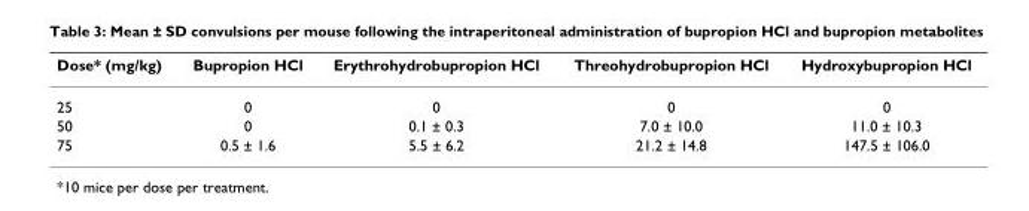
<table><thead><tr><td>Dose* (mg/kg)</td><td>Bupropion HCl</td><td>Erythrohydrobupropion HCl</td><td>Threohydrobupropion HCl</td><td>Hydroxybupropion HCl</td></tr></thead><tbody><tr><td>25</td><td>0</td><td>0</td><td>0</td><td>0</td></tr><tr><td>50</td><td>0</td><td>0.1 ± 0.3</td><td>7.0 ± 10.0</td><td>11.0 ± 10.3</td></tr><tr><td>75</td><td>0.5 ± 1.6</td><td>5.5 ± 6.2</td><td>21.2 ± 14.8</td><td>147.5 ± 106.0</td></tr></tbody></table>